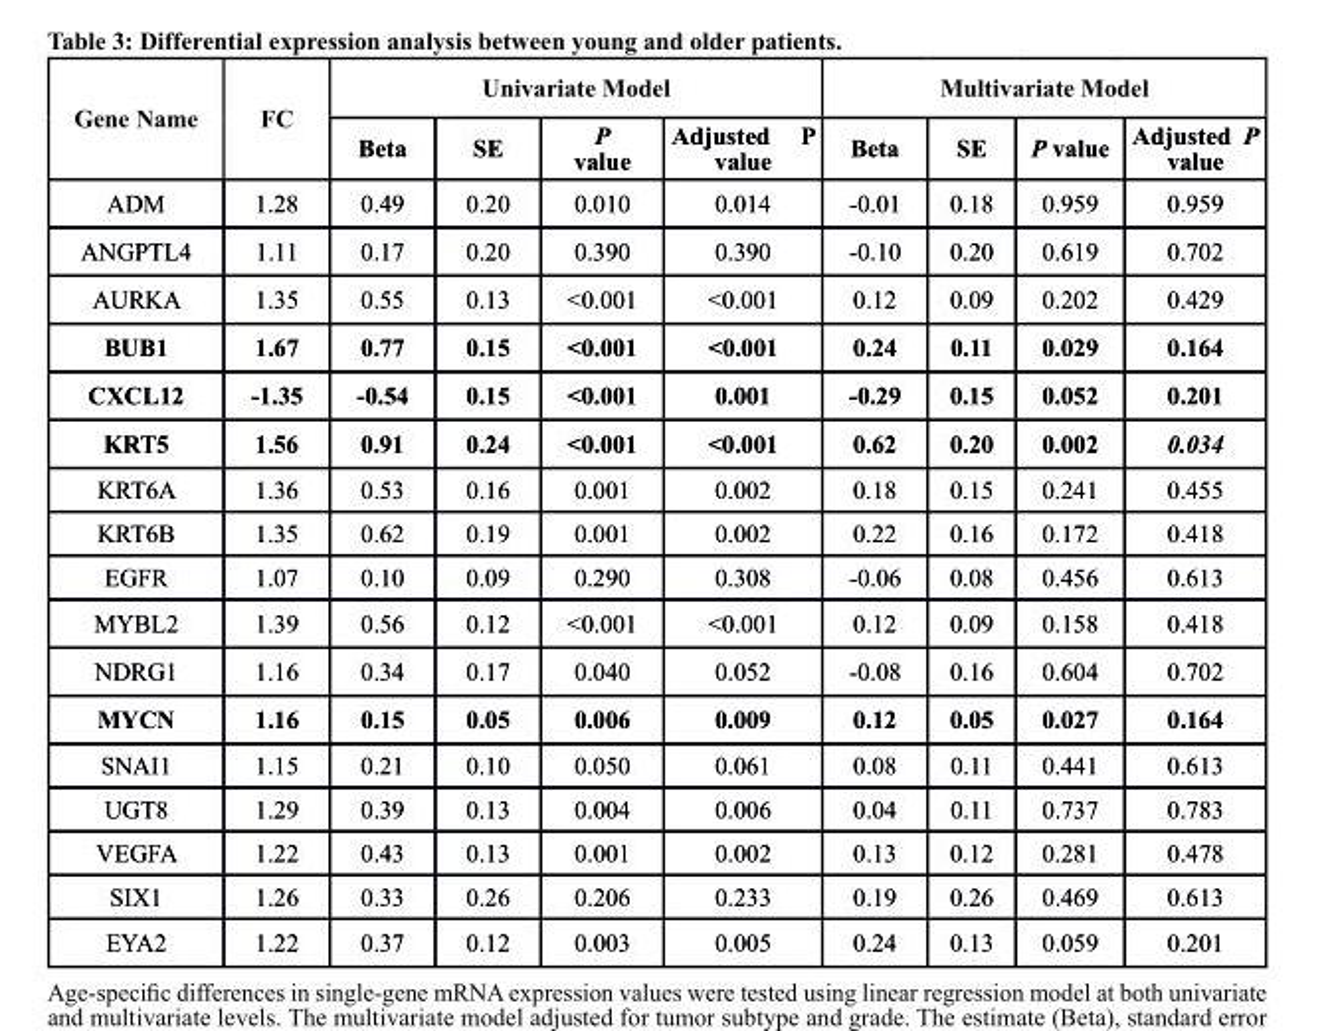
<table><thead><tr><td rowspan="2">Gene Name</td><td rowspan="2">Fc</td><td colspan="4">Univariate Model</td><td colspan="4">Multivariate Model</td></tr><tr><td>Beta</td><td>se</td><td>P value</td><td>Adjusted P value</td><td>Beta</td><td>se</td><td>P value</td><td>Adjusted P value</td></tr></thead><tbody><tr><td>ADM</td><td>1.28</td><td>0.49</td><td>0.20</td><td>0.010</td><td>0.014</td><td>-0.01</td><td>0.18</td><td>0.959</td><td>0.959</td></tr><tr><td>ANGPTL4</td><td>1.11</td><td>0.17</td><td>0.20</td><td>0.390</td><td>0.390</td><td>-0.10</td><td>0.20</td><td>0.619</td><td>0.702</td></tr><tr><td>AURKA</td><td>1.35</td><td>0.55</td><td>0.13</td><td>&lt;0.001</td><td>&lt;0.001</td><td>0.12</td><td>0.09</td><td>0.202</td><td>0.429</td></tr><tr><td>BUB1</td><td>1.67</td><td>0.77</td><td>0.15</td><td>&lt;0.001</td><td>&lt;0.001</td><td>0.24</td><td>0.11</td><td>0.029</td><td>0.164</td></tr><tr><td>CXCL12</td><td>-1.35</td><td>-0.54</td><td>0.15</td><td>&lt;0.001</td><td>0.001</td><td>-0.29</td><td>0.15</td><td>0.052</td><td>0.201</td></tr><tr><td>KRT5</td><td>1.56</td><td>0.91</td><td>0.24</td><td>&lt;0.001</td><td>&lt;0.001</td><td>0.62</td><td>0.20</td><td>0.002</td><td>0.034</td></tr><tr><td>KRT6A</td><td>1.36</td><td>0.53</td><td>0.16</td><td>0.001</td><td>0.002</td><td>0.18</td><td>0.15</td><td>0.241</td><td>0.455</td></tr><tr><td>KRT6B</td><td>1.35</td><td>0.62</td><td>0.19</td><td>0.001</td><td>0.002</td><td>0.22</td><td>0.16</td><td>0.172</td><td>0.418</td></tr><tr><td>EGFR</td><td>1.07</td><td>0.10</td><td>0.09</td><td>0.290</td><td>0.308</td><td>-0.06</td><td>0.08</td><td>0.456</td><td>0.613</td></tr><tr><td>MYBL2</td><td>1.39</td><td>0.56</td><td>0.12</td><td>&lt;0.001</td><td>&lt;0.001</td><td>0.12</td><td>0.09</td><td>0.158</td><td>0.418</td></tr><tr><td>NDRG1</td><td>1.16</td><td>0.34</td><td>0.17</td><td>0.040</td><td>0.052</td><td>-0.08</td><td>0.16</td><td>0.604</td><td>0.702</td></tr><tr><td>MYCN</td><td>1.16</td><td>0.15</td><td>0.05</td><td>0.006</td><td>0.009</td><td>0.12</td><td>0.05</td><td>0.027</td><td>0.164</td></tr><tr><td>SNAI1</td><td>1.15</td><td>0.21</td><td>0.10</td><td>0.050</td><td>0.061</td><td>0.08</td><td>0.11</td><td>0.441</td><td>0.613</td></tr><tr><td>UGT8</td><td>1.29</td><td>0.39</td><td>0.13</td><td>0.004</td><td>0.006</td><td>0.04</td><td>0.11</td><td>0.737</td><td>0.783</td></tr><tr><td>VEGFA</td><td>1.22</td><td>0.43</td><td>0.13</td><td>0.001</td><td>0.002</td><td>0.13</td><td>0.12</td><td>0.281</td><td>0.478</td></tr><tr><td>SIX1</td><td>1.26</td><td>0.33</td><td>0.26</td><td>0.206</td><td>0.233</td><td>0.19</td><td>0.26</td><td>0.469</td><td>0.613</td></tr><tr><td>EYA2</td><td>1.22</td><td>0.37</td><td>0.12</td><td>0.003</td><td>0.005</td><td>0.24</td><td>0.13</td><td>0.059</td><td>0.201</td></tr></tbody></table>